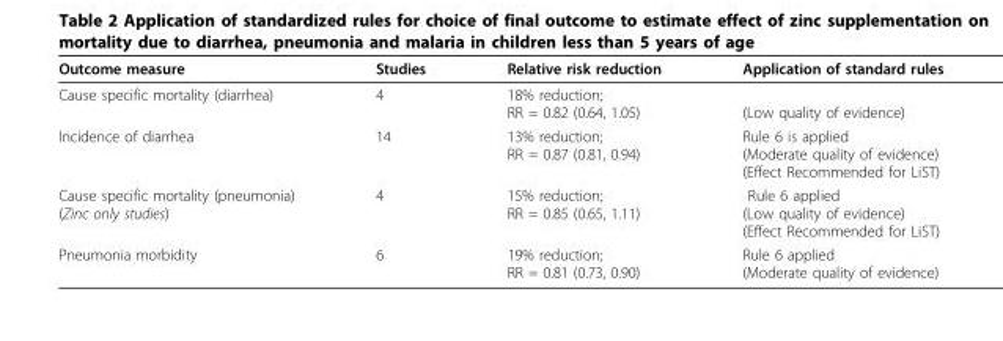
<table><thead><tr><td>Outcome measure</td><td>Studies</td><td>Relative risk reduction</td><td>Application of standard rules</td></tr></thead><tbody><tr><td>Cause specific mortality (diarrhea)</td><td>4</td><td>18% reduction; RR = 0.82 (0.64, 1.05)</td><td>(Low quality of evidence)</td></tr><tr><td>Incidence of diarrhea</td><td>14</td><td>13% reduction; RR = 0.87 (0.81, 0.94)</td><td>Rule 6 is applied (Moderate quality of evidence) (Effect Recommended for LiST)</td></tr><tr><td>Cause specific mortality (pneumonia) (Zinc only studies)</td><td>4</td><td>15% reduction; RR = 0.85 (0.65, 1.11)</td><td>Rule 6 applied (Low quality of evidence) (Effect Recommended for LiST)</td></tr><tr><td>Pneumonia morbidity</td><td>6</td><td>19% reduction; RR = 0.81 (0.73, 0.90)</td><td>Rule 6 applied (Moderate quality of evidence)</td></tr></tbody></table>